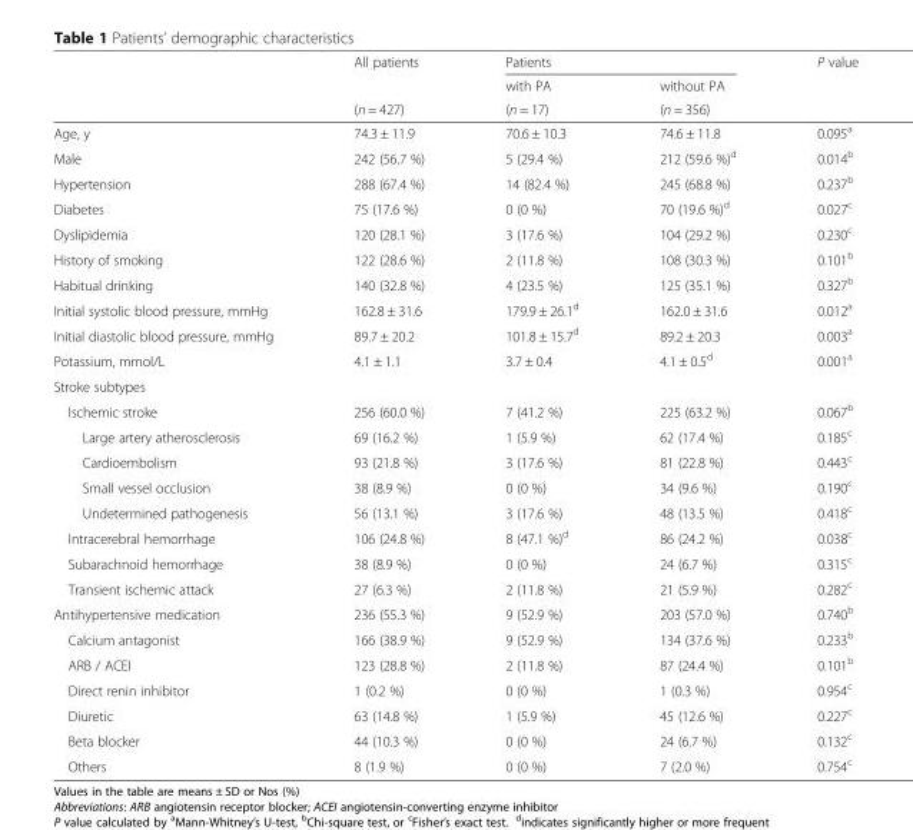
<table><thead><tr><td rowspan="3"></td><td rowspan="3">All patients (n = 427)</td><td colspan="2">Patients</td><td rowspan="3">P value</td></tr><tr><td rowspan="2">with PA (n = 17)</td><td rowspan="2">without PA (n = 356)</td></tr><tr></tr></thead><tbody><tr><td>Age, y</td><td>74.3 ± 11.9</td><td>70.6 ± 10.3</td><td>74.6 ± 11.8</td><td>0.095<sup>a</sup></td></tr><tr><td>Male</td><td>242 (56.7 %)</td><td>5 (29.4 %)</td><td>212 (59.6 %)<sup>d</sup></td><td>0.014<sup>b</sup></td></tr><tr><td>Hypertension</td><td>288 (67.4 %)</td><td>14 (82.4 %)</td><td>245 (68.8 %)</td><td>0.237<sup>b</sup></td></tr><tr><td>Diabetes</td><td>75 (17.6 %)</td><td>0 (0 %)</td><td>70 (19.6 %)<sup>d</sup></td><td>0.027<sup>c</sup></td></tr><tr><td>Dyslipidemia</td><td>120 (28.1 %)</td><td>3 (17.6 %)</td><td>104 (29.2 %)</td><td>0.230<sup>c</sup></td></tr><tr><td>History of smoking</td><td>122 (28.6 %)</td><td>2 (11.8 %)</td><td>108 (30.3 %)</td><td>0.101<sup>b</sup></td></tr><tr><td>Habitual drinking</td><td>140 (32.8 %)</td><td>4 (23.5 %)</td><td>125 (35.1 %)</td><td>0.327<sup>b</sup></td></tr><tr><td>Initial systolic blood pressure, mmHg</td><td>162.8 ± 31.6</td><td>179.9 ± 26.1<sup>d</sup></td><td>162.0 ± 31.6</td><td>0.012<sup>a</sup></td></tr><tr><td>Initial diastolic blood pressure, mmHg</td><td>89.7 ± 20.2</td><td>101.8 ± 15.7<sup>d</sup></td><td>89.2 ± 20.3</td><td>0.003<sup>a</sup></td></tr><tr><td>Potassium, mmol/L</td><td>4.1 ± 1.1</td><td>3.7 ± 0.4</td><td>4.1 ± 0.5<sup>d</sup></td><td>0.001<sup>a</sup></td></tr><tr><td colspan="5">Stroke subtypes</td></tr><tr><td>Ischemic stroke</td><td>256 (60.0 %)</td><td>7 (41.2 %)</td><td>225 (63.2 %)</td><td>0.067<sup>b</sup></td></tr><tr><td>Large artery atherosclerosis</td><td>69 (16.2 %)</td><td>1 (5.9 %)</td><td>62 (17.4 %)</td><td>0.185<sup>c</sup></td></tr><tr><td>Cardioembolism</td><td>93 (21.8 %)</td><td>3 (17.6 %)</td><td>81 (22.8 %)</td><td>0.443<sup>c</sup></td></tr><tr><td>Small vessel occlusion</td><td>38 (8.9 %)</td><td>0 (0 %)</td><td>34 (9.6 %)</td><td>0.190<sup>c</sup></td></tr><tr><td>Undetermined pathogenesis</td><td>56 (13.1 %)</td><td>3 (17.6 %)</td><td>48 (13.5 %)</td><td>0.418<sup>c</sup></td></tr><tr><td>Intracerebral hemorrhage</td><td>106 (24.8 %)</td><td>8 (47.1 %)<sup>d</sup></td><td>86 (24.2 %)</td><td>0.038<sup>c</sup></td></tr><tr><td>Subarachnoid hemorrhage</td><td>38 (8.9 %)</td><td>0 (0 %)</td><td>24 (6.7 %)</td><td>0.315<sup>c</sup></td></tr><tr><td>Transient ischemic attack</td><td>27 (6.3 %)</td><td>2 (11.8 %)</td><td>21 (5.9 %)</td><td>0.282<sup>c</sup></td></tr><tr><td>Antihypertensive medication</td><td>236 (55.3 %)</td><td>9 (52.9 %)</td><td>203 (57.0 %)</td><td>0.740<sup>b</sup></td></tr><tr><td>Calcium antagonist</td><td>166 (38.9 %)</td><td>9 (52.9 %)</td><td>134 (37.6 %)</td><td>0.233<sup>b</sup></td></tr><tr><td>ARB / ACEI</td><td>123 (28.8 %)</td><td>2 (11.8 %)</td><td>87 (24.4 %)</td><td>0.101<sup>b</sup></td></tr><tr><td>Direct renin inhibitor</td><td>1 (0.2 %)</td><td>0 (0 %)</td><td>1 (0.3 %)</td><td>0.954<sup>c</sup></td></tr><tr><td>Diuretic</td><td>63 (14.8 %)</td><td>1 (5.9 %)</td><td>45 (12.6 %)</td><td>0.227<sup>c</sup></td></tr><tr><td>Beta blocker</td><td>44 (10.3 %)</td><td>0 (0 %)</td><td>24 (6.7 %)</td><td>0.132<sup>c</sup></td></tr><tr><td>Others</td><td>8 (1.9 %)</td><td>0 (0 %)</td><td>7 (2.0 %)</td><td>0.754<sup>c</sup></td></tr></tbody></table>